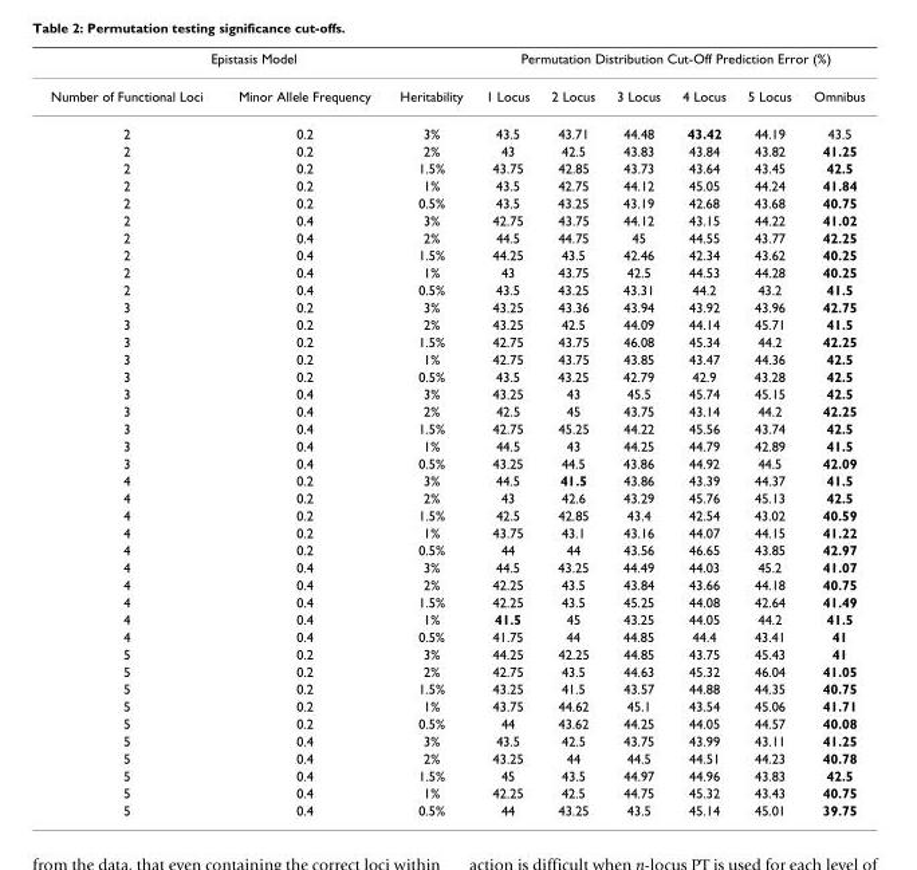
<table><thead><tr><td colspan="3">Epistasis Model</td><td colspan="6">Permutation Distribution Cut-Off Prediction Error (%)</td></tr><tr><td>Number of Functional Loci</td><td>Minor Allele Frequency</td><td>Heritability</td><td>1 Locus</td><td>2 Locus</td><td>3 Locus</td><td>4 Locus</td><td>5 Locus</td><td>Omnibus</td></tr></thead><tbody><tr><td>2</td><td>0.2</td><td>3%</td><td>43.5</td><td>43.71</td><td>44.48</td><td>43.42</td><td>44.19</td><td>43.5</td></tr><tr><td>2</td><td>0.2</td><td>2%</td><td>43</td><td>42.5</td><td>43.83</td><td>43.84</td><td>43.82</td><td>41.25</td></tr><tr><td>2</td><td>0.2</td><td>1.5%</td><td>43.75</td><td>42.85</td><td>43.73</td><td>43.64</td><td>43.45</td><td>42.5</td></tr><tr><td>2</td><td>0.2</td><td>1%</td><td>43.5</td><td>42.75</td><td>44.12</td><td>45.05</td><td>44.24</td><td>41.84</td></tr><tr><td>2</td><td>0.2</td><td>0.5%</td><td>43.5</td><td>43.25</td><td>43.19</td><td>42.68</td><td>43.68</td><td>40.75</td></tr><tr><td>2</td><td>0.4</td><td>3%</td><td>42.75</td><td>43.75</td><td>44.12</td><td>43.15</td><td>44.22</td><td>41.02</td></tr><tr><td>2</td><td>0.4</td><td>2%</td><td>44.5</td><td>44.75</td><td>45</td><td>44.55</td><td>43.77</td><td>42.25</td></tr><tr><td>2</td><td>0.4</td><td>1.5%</td><td>44.25</td><td>43.5</td><td>42.46</td><td>42.34</td><td>43.62</td><td>40.25</td></tr><tr><td>2</td><td>0.4</td><td>1%</td><td>43</td><td>43.75</td><td>42.5</td><td>44.53</td><td>44.28</td><td>40.25</td></tr><tr><td>2</td><td>0.4</td><td>0.5%</td><td>43.5</td><td>43.25</td><td>43.31</td><td>44.2</td><td>43.2</td><td>41.5</td></tr><tr><td>3</td><td>0.2</td><td>3%</td><td>43.25</td><td>43.36</td><td>43.94</td><td>43.92</td><td>43.96</td><td>42.75</td></tr><tr><td>3</td><td>0.2</td><td>2%</td><td>43.25</td><td>42.5</td><td>44.09</td><td>44.14</td><td>45.71</td><td>41.5</td></tr><tr><td>3</td><td>0.2</td><td>1.5%</td><td>42.75</td><td>43.75</td><td>46.08</td><td>45.34</td><td>44.2</td><td>42.25</td></tr><tr><td>3</td><td>0.2</td><td>1%</td><td>42.75</td><td>43.75</td><td>43.85</td><td>43.47</td><td>44.36</td><td>42.5</td></tr><tr><td>3</td><td>0.2</td><td>0.5%</td><td>43.5</td><td>43.25</td><td>42.79</td><td>42.9</td><td>43.28</td><td>42.5</td></tr><tr><td>3</td><td>0.4</td><td>3%</td><td>43.25</td><td>43</td><td>45.5</td><td>45.74</td><td>45.15</td><td>42.5</td></tr><tr><td>3</td><td>0.4</td><td>2%</td><td>42.5</td><td>45</td><td>43.75</td><td>43.14</td><td>44.2</td><td>42.25</td></tr><tr><td>3</td><td>0.4</td><td>1.5%</td><td>42.75</td><td>45.25</td><td>44.22</td><td>45.56</td><td>43.74</td><td>42.5</td></tr><tr><td>3</td><td>0.4</td><td>1%</td><td>44.5</td><td>43</td><td>44.25</td><td>44.79</td><td>42.89</td><td>41.5</td></tr><tr><td>3</td><td>0.4</td><td>0.5%</td><td>43.25</td><td>44.5</td><td>43.86</td><td>44.92</td><td>44.5</td><td>42.09</td></tr><tr><td>4</td><td>0.2</td><td>3%</td><td>44.5</td><td>41.5</td><td>43.86</td><td>43.39</td><td>44.37</td><td>41.5</td></tr><tr><td>4</td><td>0.2</td><td>2%</td><td>43</td><td>42.6</td><td>43.29</td><td>45.76</td><td>45.13</td><td>42.5</td></tr><tr><td>4</td><td>0.2</td><td>1.5%</td><td>42.5</td><td>42.85</td><td>43.4</td><td>42.54</td><td>43.02</td><td>40.59</td></tr><tr><td>4</td><td>0.2</td><td>1%</td><td>43.75</td><td>43.1</td><td>43.16</td><td>44.07</td><td>44.15</td><td>41.22</td></tr><tr><td>4</td><td>0.2</td><td>0.5%</td><td>44</td><td>44</td><td>43.56</td><td>46.65</td><td>43.85</td><td>42.97</td></tr><tr><td>4</td><td>0.4</td><td>3%</td><td>44.5</td><td>43.25</td><td>44.49</td><td>44.03</td><td>45.2</td><td>41.07</td></tr><tr><td>4</td><td>0.4</td><td>2%</td><td>42.25</td><td>43.5</td><td>43.84</td><td>43.66</td><td>44.18</td><td>40.75</td></tr><tr><td>4</td><td>0.4</td><td>1.5%</td><td>42.25</td><td>43.5</td><td>45.25</td><td>44.08</td><td>42.64</td><td>41.49</td></tr><tr><td>4</td><td>0.4</td><td>1%</td><td>41.5</td><td>45</td><td>43.25</td><td>44.05</td><td>44.2</td><td>41.5</td></tr><tr><td>4</td><td>0.4</td><td>0.5%</td><td>41.75</td><td>44</td><td>44.85</td><td>44.4</td><td>43.41</td><td>41</td></tr><tr><td>5</td><td>0.2</td><td>3%</td><td>44.25</td><td>42.25</td><td>44.85</td><td>43.75</td><td>45.43</td><td>41</td></tr><tr><td>5</td><td>0.2</td><td>2%</td><td>42.75</td><td>43.5</td><td>44.63</td><td>45.32</td><td>46.04</td><td>41.05</td></tr><tr><td>5</td><td>0.2</td><td>1.5%</td><td>43.25</td><td>41.5</td><td>43.57</td><td>44.88</td><td>44.35</td><td>40.75</td></tr><tr><td>5</td><td>0.2</td><td>1%</td><td>43.75</td><td>44.62</td><td>45.1</td><td>43.54</td><td>45.06</td><td>41.71</td></tr><tr><td>5</td><td>0.2</td><td>0.5%</td><td>44</td><td>43.62</td><td>44.25</td><td>44.05</td><td>44.57</td><td>40.08</td></tr><tr><td>5</td><td>0.4</td><td>3%</td><td>43.5</td><td>42.5</td><td>43.75</td><td>43.99</td><td>43.11</td><td>41.25</td></tr><tr><td>5</td><td>0.4</td><td>2%</td><td>43.25</td><td>44</td><td>44.5</td><td>44.51</td><td>44.23</td><td>40.78</td></tr><tr><td>5</td><td>0.4</td><td>1.5%</td><td>45</td><td>43.5</td><td>44.97</td><td>44.96</td><td>43.83</td><td>42.5</td></tr><tr><td>5</td><td>0.4</td><td>1%</td><td>42.25</td><td>42.5</td><td>44.75</td><td>45.32</td><td>43.43</td><td>40.75</td></tr><tr><td>5</td><td>0.4</td><td>0.5%</td><td>44</td><td>43.25</td><td>43.5</td><td>45.14</td><td>45.01</td><td>39.75</td></tr></tbody></table>